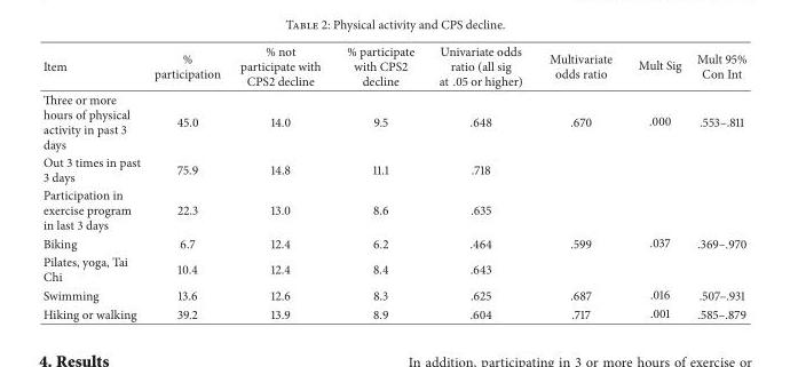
<table><thead><tr><td>Item</td><td>% participation</td><td>% not participate with CPS2 decline</td><td>% participate with CPS2 decline</td><td>Univariate odds ratio (all sig at .05 or higher)</td><td>Multivariate odds ratio</td><td>Mult Sig</td><td>Mult 95% Con Int</td></tr></thead><tbody><tr><td>Three or more hours of physical activity in past 3 days</td><td>45.0</td><td>14.0</td><td>9.5</td><td>.648</td><td>.670</td><td>.000</td><td>.553–.811</td></tr><tr><td>Out 3 times in past 3 days</td><td>75.9</td><td>14.8</td><td>11.1</td><td>.718</td><td></td><td></td><td></td></tr><tr><td>Participation in exercise program in last 3 days</td><td>22.3</td><td>13.0</td><td>8.6</td><td>.635</td><td></td><td></td><td></td></tr><tr><td>Biking</td><td>6.7</td><td>12.4</td><td>6.2</td><td>.464</td><td>.599</td><td>.037</td><td>.369–.970</td></tr><tr><td>Pilates, yoga, Tai Chi</td><td>10.4</td><td>12.4</td><td>8.4</td><td>.643</td><td></td><td></td><td></td></tr><tr><td>Swimming</td><td>13.6</td><td>12.6</td><td>8.3</td><td>.625</td><td>.687</td><td>.016</td><td>.507–.931</td></tr><tr><td>Hiking or walking</td><td>39.2</td><td>13.9</td><td>8.9</td><td>.604</td><td>.717</td><td>.001</td><td>.585–.879</td></tr></tbody></table>